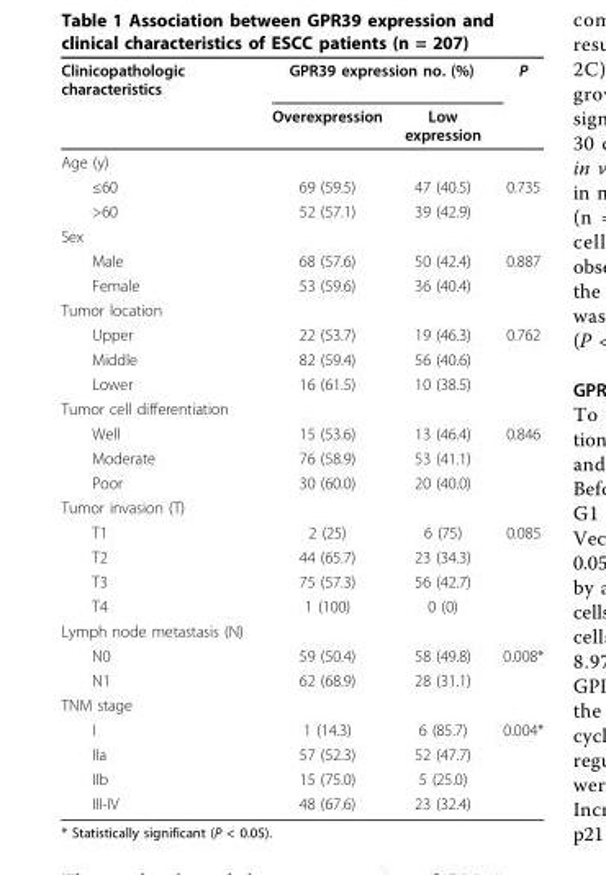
<table><thead><tr><td rowspan="2">Clinicopathologic characteristics</td><td colspan="2">GPR39 expression no. (%)</td><td rowspan="2">P</td></tr><tr><td>Overexpression</td><td>Low expression</td></tr></thead><tbody><tr><td colspan="4">Age (y)</td></tr><tr><td>≤60</td><td>69 (59.5)</td><td>47 (40.5)</td><td>0.735</td></tr><tr><td>&gt;60</td><td>52 (57.1)</td><td>39 (42.9)</td><td></td></tr><tr><td colspan="4">Sex</td></tr><tr><td>Male</td><td>68 (57.6)</td><td>50 (42.4)</td><td>0.887</td></tr><tr><td>Female</td><td>53 (59.6)</td><td>36 (40.4)</td><td></td></tr><tr><td colspan="4">Tumor location</td></tr><tr><td>Upper</td><td>22 (53.7)</td><td>19 (46.3)</td><td>0.762</td></tr><tr><td>Middle</td><td>82 (59.4)</td><td>56 (40.6)</td><td></td></tr><tr><td>Lower</td><td>16 (61.5)</td><td>10 (38.5)</td><td></td></tr><tr><td colspan="4">Tumor cell differentiation</td></tr><tr><td>Well</td><td>15 (53.6)</td><td>13 (46.4)</td><td>0.846</td></tr><tr><td>Moderate</td><td>76 (58.9)</td><td>53 (41.1)</td><td></td></tr><tr><td>Poor</td><td>30 (60.0)</td><td>20 (40.0)</td><td></td></tr><tr><td colspan="4">Tumor invasion (T)</td></tr><tr><td>T1</td><td>2 (25)</td><td>6 (75)</td><td>0.085</td></tr><tr><td>T2</td><td>44 (65.7)</td><td>23 (34.3)</td><td></td></tr><tr><td>T3</td><td>75 (57.3)</td><td>56 (42.7)</td><td></td></tr><tr><td>T4</td><td>1 (100)</td><td>0 (0)</td><td></td></tr><tr><td colspan="4">Lymph node metastasis (N)</td></tr><tr><td>N0</td><td>59 (50.4)</td><td>58 (49.8)</td><td>0.008*</td></tr><tr><td>N1</td><td>62 (68.9)</td><td>28 (31.1)</td><td></td></tr><tr><td colspan="4">TNM stage</td></tr><tr><td>I</td><td>1 (14.3)</td><td>6 (85.7)</td><td>0.004*</td></tr><tr><td>IIa</td><td>57 (52.3)</td><td>52 (47.7)</td><td></td></tr><tr><td>IIb</td><td>15 (75.0)</td><td>5 (25.0)</td><td></td></tr><tr><td>III-IV</td><td>48 (67.6)</td><td>23 (32.4)</td><td></td></tr></tbody></table>